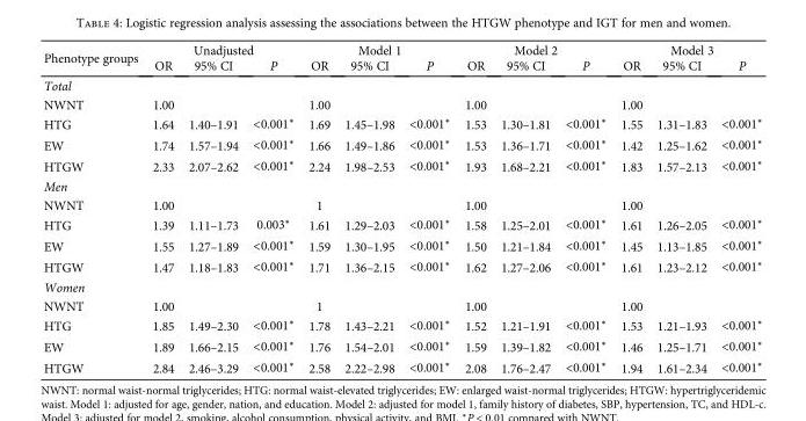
<table><thead><tr><td rowspan="2">Phenotype groups</td><td colspan="3">Unadjusted</td><td colspan="3">Model 1</td><td colspan="3">Model 2</td><td colspan="3">Model 3</td></tr><tr><td>OR</td><td>95% CI</td><td>P</td><td>OR</td><td>95% CI</td><td>P</td><td>OR</td><td>95% CI</td><td>P</td><td>OR</td><td>95% CI</td><td>P</td></tr></thead><tbody><tr><td colspan="13">Total</td></tr><tr><td>NWNT</td><td>1.00</td><td></td><td></td><td>1.00</td><td></td><td></td><td>1.00</td><td></td><td></td><td>1.00</td><td></td><td></td></tr><tr><td>HTG</td><td>1.64</td><td>1.40–1.91</td><td>&lt;0.001∗</td><td>1.69</td><td>1.45–1.98</td><td>&lt;0.001∗</td><td>1.53</td><td>1.30–1.81</td><td>&lt;0.001∗</td><td>1.55</td><td>1.31–1.83</td><td>&lt;0.001∗</td></tr><tr><td>EW</td><td>1.74</td><td>1.57–1.94</td><td>&lt;0.001∗</td><td>1.66</td><td>1.49–1.86</td><td>&lt;0.001∗</td><td>1.53</td><td>1.36–1.71</td><td>&lt;0.001∗</td><td>1.42</td><td>1.25–1.62</td><td>&lt;0.001∗</td></tr><tr><td>HTGW</td><td>2.33</td><td>2.07–2.62</td><td>&lt;0.001∗</td><td>2.24</td><td>1.98–2.53</td><td>&lt;0.001∗</td><td>1.93</td><td>1.68–2.21</td><td>&lt;0.001∗</td><td>1.83</td><td>1.57–2.13</td><td>&lt;0.001∗</td></tr><tr><td colspan="13">Men</td></tr><tr><td>NWNT</td><td>1.00</td><td></td><td></td><td>1</td><td></td><td></td><td>1.00</td><td></td><td></td><td>1.00</td><td></td><td></td></tr><tr><td>HTG</td><td>1.39</td><td>1.11–1.73</td><td>0.003∗</td><td>1.61</td><td>1.29–2.03</td><td>&lt;0.001∗</td><td>1.58</td><td>1.25–2.01</td><td>&lt;0.001∗</td><td>1.61</td><td>1.26–2.05</td><td>&lt;0.001∗</td></tr><tr><td>EW</td><td>1.55</td><td>1.27–1.89</td><td>&lt;0.001∗</td><td>1.59</td><td>1.30–1.95</td><td>&lt;0.001∗</td><td>1.50</td><td>1.21–1.84</td><td>&lt;0.001∗</td><td>1.45</td><td>1.13–1.85</td><td>&lt;0.001∗</td></tr><tr><td>HTGW</td><td>1.47</td><td>1.18–1.83</td><td>&lt;0.001∗</td><td>1.71</td><td>1.36–2.15</td><td>&lt;0.001∗</td><td>1.62</td><td>1.27–2.06</td><td>&lt;0.001∗</td><td>1.61</td><td>1.23–2.12</td><td>&lt;0.001∗</td></tr><tr><td colspan="13">Women</td></tr><tr><td>NWNT</td><td>1.00</td><td></td><td></td><td>1</td><td></td><td></td><td>1.00</td><td></td><td></td><td>1.00</td><td></td><td></td></tr><tr><td>HTG</td><td>1.85</td><td>1.49–2.30</td><td>&lt;0.001∗</td><td>1.78</td><td>1.43–2.21</td><td>&lt;0.001∗</td><td>1.52</td><td>1.21–1.91</td><td>&lt;0.001∗</td><td>1.53</td><td>1.21–1.93</td><td>&lt;0.001∗</td></tr><tr><td>EW</td><td>1.89</td><td>1.66–2.15</td><td>&lt;0.001∗</td><td>1.76</td><td>1.54–2.01</td><td>&lt;0.001∗</td><td>1.59</td><td>1.39–1.82</td><td>&lt;0.001∗</td><td>1.46</td><td>1.25–1.71</td><td>&lt;0.001∗</td></tr><tr><td>HTGW</td><td>2.84</td><td>2.46–3.29</td><td>&lt;0.001∗</td><td>2.58</td><td>2.22–2.98</td><td>&lt;0.001∗</td><td>2.08</td><td>1.76–2.47</td><td>&lt;0.001∗</td><td>1.94</td><td>1.61–2.34</td><td>&lt;0.001∗</td></tr></tbody></table>